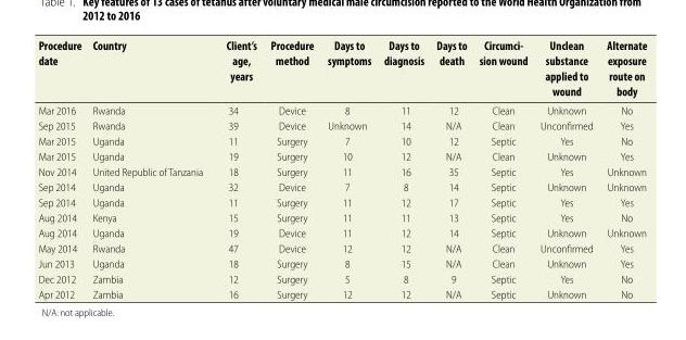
<table><thead><tr><td>Procedure date</td><td>Country</td><td>Client’s age, years</td><td>Procedure method</td><td>Days to symptoms</td><td>Days to diagnosis</td><td>Days to death</td><td>Circumci- sion wound</td><td>Unclean substance applied to wound</td><td>Alternate exposure route on body</td></tr></thead><tbody><tr><td>Mar 2016</td><td>Rwanda</td><td>34</td><td>Device</td><td>8</td><td>11</td><td>12</td><td>Clean</td><td>Unknown</td><td>No</td></tr><tr><td>Sep 2015</td><td>Rwanda</td><td>39</td><td>Device</td><td>Unknown</td><td>14</td><td>N/A</td><td>Clean</td><td>Unconfirmed</td><td>Yes</td></tr><tr><td>Mar 2015</td><td>Uganda</td><td>11</td><td>Surgery</td><td>7</td><td>10</td><td>12</td><td>Septic</td><td>Yes</td><td>No</td></tr><tr><td>Mar 2015</td><td>Uganda</td><td>19</td><td>Surgery</td><td>10</td><td>12</td><td>N/A</td><td>Clean</td><td>Unknown</td><td>Yes</td></tr><tr><td>Nov 2014</td><td>United Republic of Tanzania</td><td>18</td><td>Surgery</td><td>11</td><td>16</td><td>35</td><td>Septic</td><td>Yes</td><td>Unknown</td></tr><tr><td>Sep 2014</td><td>Uganda</td><td>32</td><td>Device</td><td>7</td><td>8</td><td>14</td><td>Septic</td><td>Unknown</td><td>Unknown</td></tr><tr><td>Sep 2014</td><td>Uganda</td><td>11</td><td>Surgery</td><td>11</td><td>12</td><td>17</td><td>Septic</td><td>Yes</td><td>Yes</td></tr><tr><td>Aug 2014</td><td>Kenya</td><td>15</td><td>Surgery</td><td>11</td><td>11</td><td>13</td><td>Septic</td><td>Yes</td><td>No</td></tr><tr><td>Aug 2014</td><td>Uganda</td><td>19</td><td>Device</td><td>11</td><td>12</td><td>14</td><td>Septic</td><td>Unknown</td><td>Unknown</td></tr><tr><td>May 2014</td><td>Rwanda</td><td>47</td><td>Device</td><td>12</td><td>12</td><td>N/A</td><td>Clean</td><td>Unconfirmed</td><td>Yes</td></tr><tr><td>Jun 2013</td><td>Uganda</td><td>18</td><td>Surgery</td><td>8</td><td>15</td><td>N/A</td><td>Clean</td><td>Unknown</td><td>Yes</td></tr><tr><td>Dec 2012</td><td>Zambia</td><td>12</td><td>Surgery</td><td>5</td><td>8</td><td>9</td><td>Septic</td><td>Yes</td><td>No</td></tr><tr><td>Apr 2012</td><td>Zambia</td><td>16</td><td>Surgery</td><td>12</td><td>12</td><td>N/A</td><td>Septic</td><td>Unknown</td><td>No</td></tr></tbody></table>